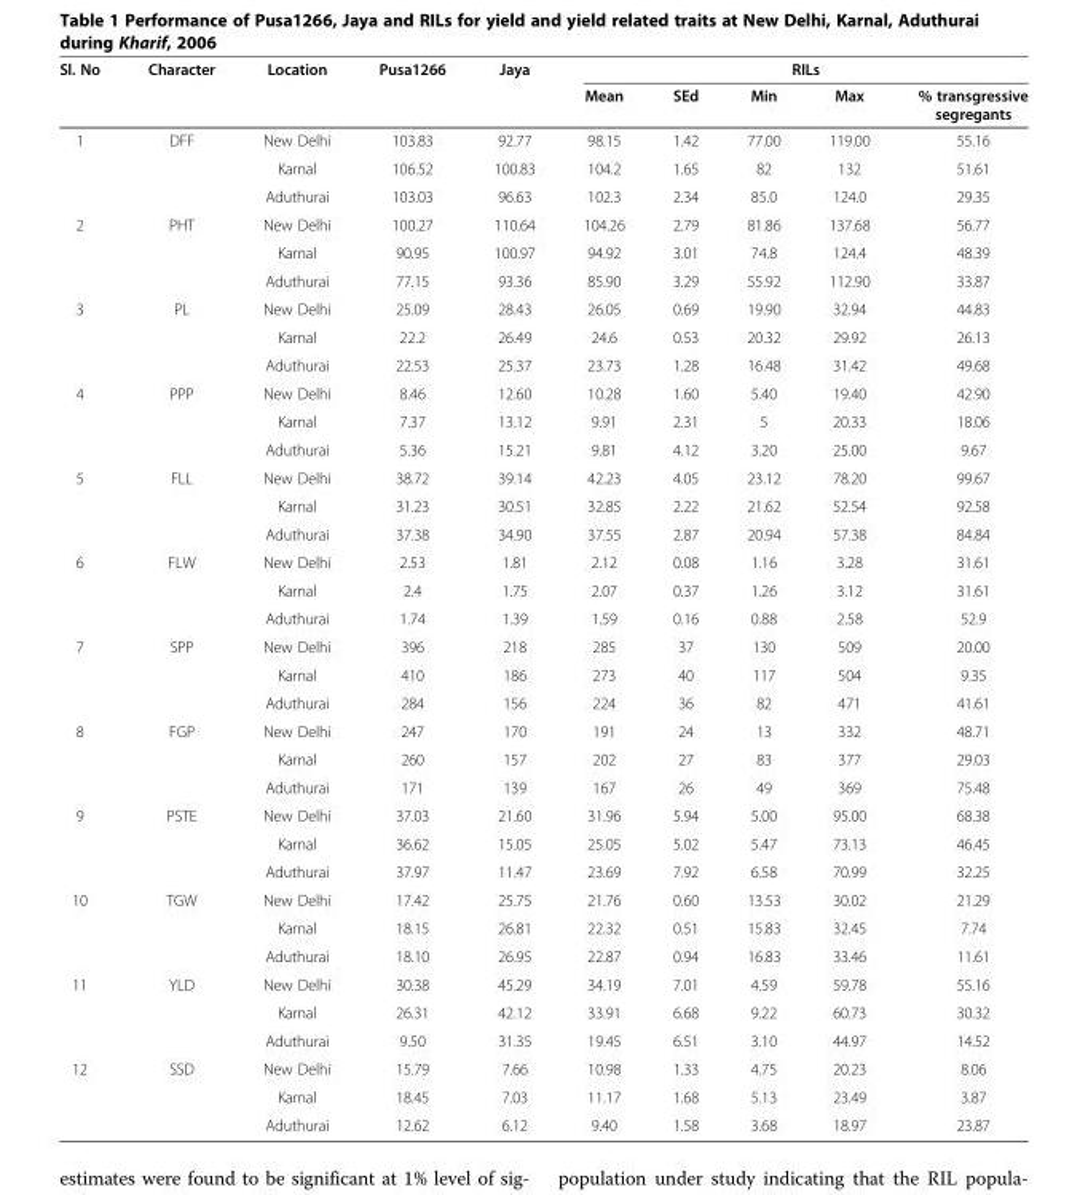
<table><thead><tr><td rowspan="2">Sl. No</td><td rowspan="2">Character</td><td rowspan="2">Location</td><td rowspan="2">Pusa1266</td><td rowspan="2">Jaya</td><td colspan="5">RILs</td></tr><tr><td>Mean</td><td>SEd</td><td>Min</td><td>Max</td><td>% transgressive segregants</td></tr></thead><tbody><tr><td rowspan="3">1</td><td rowspan="3">DFF</td><td>New Delhi</td><td>103.83</td><td>92.77</td><td>98.15</td><td>1.42</td><td>77.00</td><td>119.00</td><td>55.16</td></tr><tr><td>Karnal</td><td>106.52</td><td>100.83</td><td>104.2</td><td>1.65</td><td>82</td><td>132</td><td>51.61</td></tr><tr><td>Aduthurai</td><td>103.03</td><td>96.63</td><td>102.3</td><td>2.34</td><td>85.0</td><td>124.0</td><td>29.35</td></tr><tr><td rowspan="3">2</td><td rowspan="3">PHT</td><td>New Delhi</td><td>100.27</td><td>110.64</td><td>104.26</td><td>2.79</td><td>81.86</td><td>137.68</td><td>56.77</td></tr><tr><td>Karnal</td><td>90.95</td><td>100.97</td><td>94.92</td><td>3.01</td><td>74.8</td><td>124.4</td><td>48.39</td></tr><tr><td>Aduthurai</td><td>77.15</td><td>93.36</td><td>85.90</td><td>3.29</td><td>55.92</td><td>112.90</td><td>33.87</td></tr><tr><td rowspan="3">3</td><td rowspan="3">PL</td><td>New Delhi</td><td>25.09</td><td>28.43</td><td>26.05</td><td>0.69</td><td>19.90</td><td>32.94</td><td>44.83</td></tr><tr><td>Karnal</td><td>22.2</td><td>26.49</td><td>24.6</td><td>0.53</td><td>20.32</td><td>29.92</td><td>26.13</td></tr><tr><td>Aduthurai</td><td>22.53</td><td>25.37</td><td>23.73</td><td>1.28</td><td>16.48</td><td>31.42</td><td>49.68</td></tr><tr><td rowspan="3">4</td><td rowspan="3">PPP</td><td>New Delhi</td><td>8.46</td><td>12.60</td><td>10.28</td><td>1.60</td><td>5.40</td><td>19.40</td><td>42.90</td></tr><tr><td>Karnal</td><td>7.37</td><td>13.12</td><td>9.91</td><td>2.31</td><td>5</td><td>20.33</td><td>18.06</td></tr><tr><td>Aduthurai</td><td>5.36</td><td>15.21</td><td>9.81</td><td>4.12</td><td>3.20</td><td>25.00</td><td>9.67</td></tr><tr><td rowspan="3">5</td><td rowspan="3">FLL</td><td>New Delhi</td><td>38.72</td><td>39.14</td><td>42.23</td><td>4.05</td><td>23.12</td><td>78.20</td><td>99.67</td></tr><tr><td>Karnal</td><td>31.23</td><td>30.51</td><td>32.85</td><td>2.22</td><td>21.62</td><td>52.54</td><td>92.58</td></tr><tr><td>Aduthurai</td><td>37.38</td><td>34.90</td><td>37.55</td><td>2.87</td><td>20.94</td><td>57.38</td><td>84.84</td></tr><tr><td rowspan="3">6</td><td rowspan="3">FLW</td><td>New Delhi</td><td>2.53</td><td>1.81</td><td>2.12</td><td>0.08</td><td>1.16</td><td>3.28</td><td>31.61</td></tr><tr><td>Karnal</td><td>2.4</td><td>1.75</td><td>2.07</td><td>0.37</td><td>1.26</td><td>3.12</td><td>31.61</td></tr><tr><td>Aduthurai</td><td>1.74</td><td>1.39</td><td>1.59</td><td>0.16</td><td>0.88</td><td>2.58</td><td>52.9</td></tr><tr><td rowspan="3">7</td><td rowspan="3">SPP</td><td>New Delhi</td><td>396</td><td>218</td><td>285</td><td>37</td><td>130</td><td>509</td><td>20.00</td></tr><tr><td>Karnal</td><td>410</td><td>186</td><td>273</td><td>40</td><td>117</td><td>504</td><td>9.35</td></tr><tr><td>Aduthurai</td><td>284</td><td>156</td><td>224</td><td>36</td><td>82</td><td>471</td><td>41.61</td></tr><tr><td rowspan="3">8</td><td rowspan="3">FGP</td><td>New Delhi</td><td>247</td><td>170</td><td>191</td><td>24</td><td>13</td><td>332</td><td>48.71</td></tr><tr><td>Karnal</td><td>260</td><td>157</td><td>202</td><td>27</td><td>83</td><td>377</td><td>29.03</td></tr><tr><td>Aduthurai</td><td>171</td><td>139</td><td>167</td><td>26</td><td>49</td><td>369</td><td>75.48</td></tr><tr><td rowspan="3">9</td><td rowspan="3">PSTE</td><td>New Delhi</td><td>37.03</td><td>21.60</td><td>31.96</td><td>5.94</td><td>5.00</td><td>95.00</td><td>68.38</td></tr><tr><td>Karnal</td><td>36.62</td><td>15.05</td><td>25.05</td><td>5.02</td><td>5.47</td><td>73.13</td><td>46.45</td></tr><tr><td>Aduthurai</td><td>37.97</td><td>11.47</td><td>23.69</td><td>7.92</td><td>6.58</td><td>70.99</td><td>32.25</td></tr><tr><td rowspan="3">10</td><td rowspan="3">TGW</td><td>New Delhi</td><td>17.42</td><td>25.75</td><td>21.76</td><td>0.60</td><td>13.53</td><td>30.02</td><td>21.29</td></tr><tr><td>Karnal</td><td>18.15</td><td>26.81</td><td>22.32</td><td>0.51</td><td>15.83</td><td>32.45</td><td>7.74</td></tr><tr><td>Aduthurai</td><td>18.10</td><td>26.95</td><td>22.87</td><td>0.94</td><td>16.83</td><td>33.46</td><td>11.61</td></tr><tr><td rowspan="3">11</td><td rowspan="3">YLD</td><td>New Delhi</td><td>30.38</td><td>45.29</td><td>34.19</td><td>7.01</td><td>4.59</td><td>59.78</td><td>55.16</td></tr><tr><td>Karnal</td><td>26.31</td><td>42.12</td><td>33.91</td><td>6.68</td><td>9.22</td><td>60.73</td><td>30.32</td></tr><tr><td>Aduthurai</td><td>9.50</td><td>31.35</td><td>19.45</td><td>6.51</td><td>3.10</td><td>44.97</td><td>14.52</td></tr><tr><td rowspan="3">12</td><td rowspan="2">SSD</td><td>New Delhi</td><td>15.79</td><td>7.66</td><td>10.98</td><td>1.33</td><td>4.75</td><td>20.23</td><td>8.06</td></tr><tr><td>Karnal</td><td>18.45</td><td>7.03</td><td>11.17</td><td>1.68</td><td>5.13</td><td>23.49</td><td>3.87</td></tr><tr><td></td><td>Aduthurai</td><td>12.62</td><td>6.12</td><td>9.40</td><td>1.58</td><td>3.68</td><td>18.97</td><td>23.87</td></tr></tbody></table>